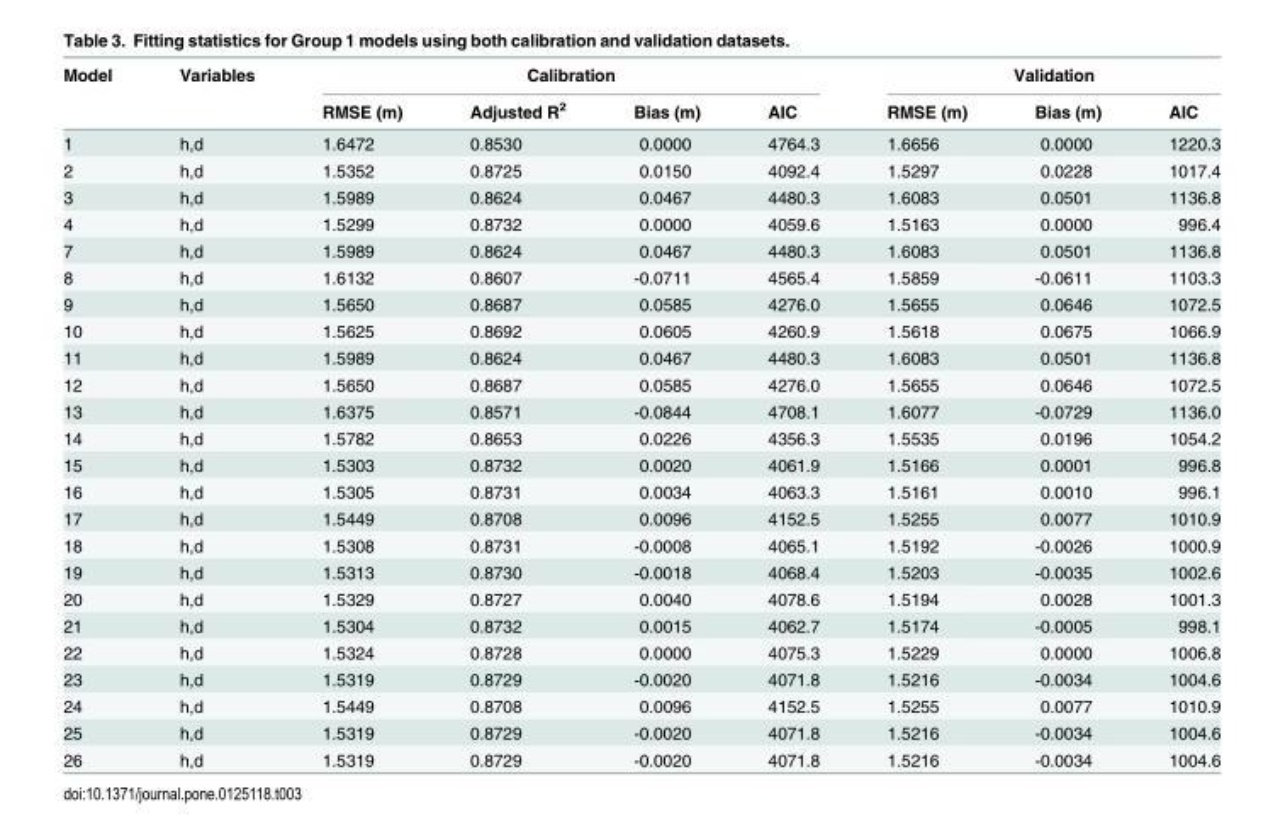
<table><thead><tr><td rowspan="2">Model</td><td rowspan="2">Variables</td><td colspan="4">Calibration</td><td colspan="3">Validation</td></tr><tr><td>RMSE (m)</td><td>Adjusted R<sup>2</sup></td><td>Bias (m)</td><td>AIC</td><td>RMSE (m)</td><td>Bias (m)</td><td>AIC</td></tr></thead><tbody><tr><td>1</td><td>h,d</td><td>1.6472</td><td>0.8530</td><td>0.0000</td><td>4764.3</td><td>1.6656</td><td>0.0000</td><td>1220.3</td></tr><tr><td>2</td><td>h,d</td><td>1.5352</td><td>0.8725</td><td>0.0150</td><td>4092.4</td><td>1.5297</td><td>0.0228</td><td>1017.4</td></tr><tr><td>3</td><td>h,d</td><td>1.5989</td><td>0.8624</td><td>0.0467</td><td>4480.3</td><td>1.6083</td><td>0.0501</td><td>1136.8</td></tr><tr><td>4</td><td>h,d</td><td>1.5299</td><td>0.8732</td><td>0.0000</td><td>4059.6</td><td>1.5163</td><td>0.0000</td><td>996.4</td></tr><tr><td>7</td><td>h,d</td><td>1.5989</td><td>0.8624</td><td>0.0467</td><td>4480.3</td><td>1.6083</td><td>0.0501</td><td>1136.8</td></tr><tr><td>8</td><td>h,d</td><td>1.6132</td><td>0.8607</td><td>-0.0711</td><td>4565.4</td><td>1.5859</td><td>-0.0611</td><td>1103.3</td></tr><tr><td>9</td><td>h,d</td><td>1.5650</td><td>0.8687</td><td>0.0585</td><td>4276.0</td><td>1.5655</td><td>0.0646</td><td>1072.5</td></tr><tr><td>10</td><td>h,d</td><td>1.5625</td><td>0.8692</td><td>0.0605</td><td>4260.9</td><td>1.5618</td><td>0.0675</td><td>1066.9</td></tr><tr><td>11</td><td>h,d</td><td>1.5989</td><td>0.8624</td><td>0.0467</td><td>4480.3</td><td>1.6083</td><td>0.0501</td><td>1136.8</td></tr><tr><td>12</td><td>h,d</td><td>1.5650</td><td>0.8687</td><td>0.0585</td><td>4276.0</td><td>1.5655</td><td>0.0646</td><td>1072.5</td></tr><tr><td>13</td><td>h,d</td><td>1.6375</td><td>0.8571</td><td>-0.0844</td><td>4708.1</td><td>1.6077</td><td>-0.0729</td><td>1136.0</td></tr><tr><td>14</td><td>h,d</td><td>1.5782</td><td>0.8653</td><td>0.0226</td><td>4356.3</td><td>1.5535</td><td>0.0196</td><td>1054.2</td></tr><tr><td>15</td><td>h,d</td><td>1.5303</td><td>0.8732</td><td>0.0020</td><td>4061.9</td><td>1.5166</td><td>0.0001</td><td>996.8</td></tr><tr><td>16</td><td>h,d</td><td>1.5305</td><td>0.8731</td><td>0.0034</td><td>4063.3</td><td>1.5161</td><td>0.0010</td><td>996.1</td></tr><tr><td>17</td><td>h,d</td><td>1.5449</td><td>0.8708</td><td>0.0096</td><td>4152.5</td><td>1.5255</td><td>0.0077</td><td>1010.9</td></tr><tr><td>18</td><td>h,d</td><td>1.5308</td><td>0.8731</td><td>-0.0008</td><td>4065.1</td><td>1.5192</td><td>-0.0026</td><td>1000.9</td></tr><tr><td>19</td><td>h,d</td><td>1.5313</td><td>0.8730</td><td>-0.0018</td><td>4068.4</td><td>1.5203</td><td>-0.0035</td><td>1002.6</td></tr><tr><td>20</td><td>h,d</td><td>1.5329</td><td>0.8727</td><td>0.0040</td><td>4078.6</td><td>1.5194</td><td>0.0028</td><td>1001.3</td></tr><tr><td>21</td><td>h,d</td><td>1.5304</td><td>0.8732</td><td>0.0015</td><td>4062.7</td><td>1.5174</td><td>-0.0005</td><td>998.1</td></tr><tr><td>22</td><td>h,d</td><td>1.5324</td><td>0.8728</td><td>0.0000</td><td>4075.3</td><td>1.5229</td><td>0.0000</td><td>1006.8</td></tr><tr><td>23</td><td>h,d</td><td>1.5319</td><td>0.8729</td><td>-0.0020</td><td>4071.8</td><td>1.5216</td><td>-0.0034</td><td>1004.6</td></tr><tr><td>24</td><td>h,d</td><td>1.5449</td><td>0.8708</td><td>0.0096</td><td>4152.5</td><td>1.5255</td><td>0.0077</td><td>1010.9</td></tr><tr><td>25</td><td>h,d</td><td>1.5319</td><td>0.8729</td><td>-0.0020</td><td>4071.8</td><td>1.5216</td><td>-0.0034</td><td>1004.6</td></tr><tr><td>26</td><td>h,d</td><td>1.5319</td><td>0.8729</td><td>-0.0020</td><td>4071.8</td><td>1.5216</td><td>-0.0034</td><td>1004.6</td></tr></tbody></table>